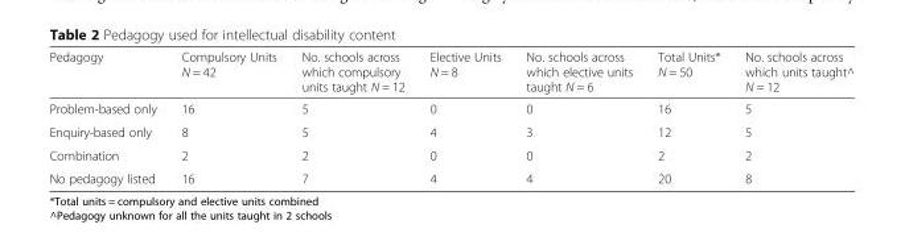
<table><thead><tr><td>Pedagogy</td><td>Compulsory Units N = 42</td><td>No. schools across which compulsory units taught N = 12</td><td>Elective Units N = 8</td><td>No. schools across which elective units taught N = 6</td><td>Total Units* N = 50</td><td>No. schools across which units taught^ N = 12</td></tr></thead><tbody><tr><td>Problem-based only</td><td>16</td><td>5</td><td>0</td><td>0</td><td>16</td><td>5</td></tr><tr><td>Enquiry-based only</td><td>8</td><td>5</td><td>4</td><td>3</td><td>12</td><td>5</td></tr><tr><td>Combination</td><td>2</td><td>2</td><td>0</td><td>0</td><td>2</td><td>2</td></tr><tr><td>No pedagogy listed</td><td>16</td><td>7</td><td>4</td><td>4</td><td>20</td><td>8</td></tr></tbody></table>